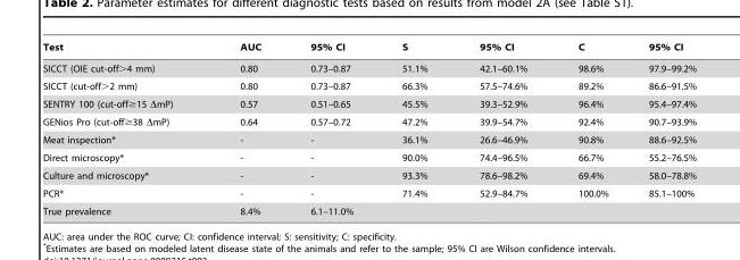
<table><thead><tr><td>Test</td><td>AUC</td><td>95% CI</td><td>S</td><td>95% CI</td><td>C</td><td>95% CI</td></tr></thead><tbody><tr><td>SICCT (OIE cut-off&gt;4 mm)</td><td>0.80</td><td>0.73–0.87</td><td>51.1%</td><td>42.1–60.1%</td><td>98.6%</td><td>97.9–99.2%</td></tr><tr><td>SICCT (cut-off&gt;2 mm)</td><td>0.80</td><td>0.73–0.87</td><td>66.3%</td><td>57.5–74.6%</td><td>89.2%</td><td>86.6–91.5%</td></tr><tr><td>SENTRY 100 (cut-off≥15 ΔmP)</td><td>0.57</td><td>0.51–0.65</td><td>45.5%</td><td>39.3–52.9%</td><td>96.4%</td><td>95.4–97.4%</td></tr><tr><td>GENios Pro (cut-off≥38 ΔmP)</td><td>0.64</td><td>0.57–0.72</td><td>47.2%</td><td>39.9–54.7%</td><td>92.4%</td><td>90.7–93.9%</td></tr><tr><td>Meat inspection*</td><td>-</td><td>-</td><td>36.1%</td><td>26.6–46.9%</td><td>90.8%</td><td>88.6–92.5%</td></tr><tr><td>Direct microscopy*</td><td>-</td><td>-</td><td>90.0%</td><td>74.4–96.5%</td><td>66.7%</td><td>55.2–76.5%</td></tr><tr><td>Culture and microscopy*</td><td>-</td><td>-</td><td>93.3%</td><td>78.6–98.2%</td><td>69.4%</td><td>58.0–78.8%</td></tr><tr><td>PCR*</td><td>-</td><td>-</td><td>71.4%</td><td>52.9–84.7%</td><td>100.0%</td><td>85.1–100%</td></tr><tr><td>True prevalence</td><td>8.4%</td><td>6.1–11.0%</td><td></td><td></td><td></td><td></td></tr></tbody></table>